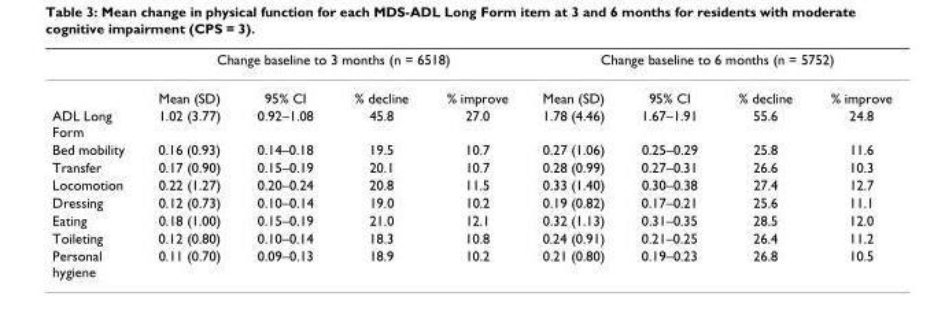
<table><thead><tr><td rowspan="2"></td><td colspan="4">Change baseline to 3 months (n = 6518)</td><td colspan="4">Change baseline to 6 months (n = 5752)</td></tr><tr><td>Mean (SD)</td><td>95% CI</td><td>% decline</td><td>% improve</td><td>Mean (SD)</td><td>95% CI</td><td>% decline</td><td>% improve</td></tr></thead><tbody><tr><td>ADL Long Form</td><td>1.02 (3.77)</td><td>0.92–1.08</td><td>45.8</td><td>27.0</td><td>1.78 (4.46)</td><td>1.67–1.91</td><td>55.6</td><td>24.8</td></tr><tr><td>Bed mobility</td><td>0.16 (0.93)</td><td>0.14–0.18</td><td>19.5</td><td>10.7</td><td>0.27 (1.06)</td><td>0.25–0.29</td><td>25.8</td><td>11.6</td></tr><tr><td>Transfer</td><td>0.17 (0.90)</td><td>0.15–0.19</td><td>20.1</td><td>10.7</td><td>0.28 (0.99)</td><td>0.27–0.31</td><td>26.6</td><td>10.3</td></tr><tr><td>Locomotion</td><td>0.22 (1.27)</td><td>0.20–0.24</td><td>20.8</td><td>11.5</td><td>0.33 (1.40)</td><td>0.30–0.38</td><td>27.4</td><td>12.7</td></tr><tr><td>Dressing</td><td>0.12 (0.73)</td><td>0.10–0.14</td><td>19.0</td><td>10.2</td><td>0.19 (0.82)</td><td>0.17–0.21</td><td>25.6</td><td>11.1</td></tr><tr><td>Eating</td><td>0.18 (1.00)</td><td>0.15–0.19</td><td>21.0</td><td>12.1</td><td>0.32 (1.13)</td><td>0.31–0.35</td><td>28.5</td><td>12.0</td></tr><tr><td>Toileting</td><td>0.12 (0.80)</td><td>0.10–0.14</td><td>18.3</td><td>10.8</td><td>0.24 (0.91)</td><td>0.21–0.25</td><td>26.4</td><td>11.2</td></tr><tr><td>Personal hygiene</td><td>0.11 (0.70)</td><td>0.09–0.13</td><td>18.9</td><td>10.2</td><td>0.21 (0.80)</td><td>0.19–0.23</td><td>26.8</td><td>10.5</td></tr></tbody></table>